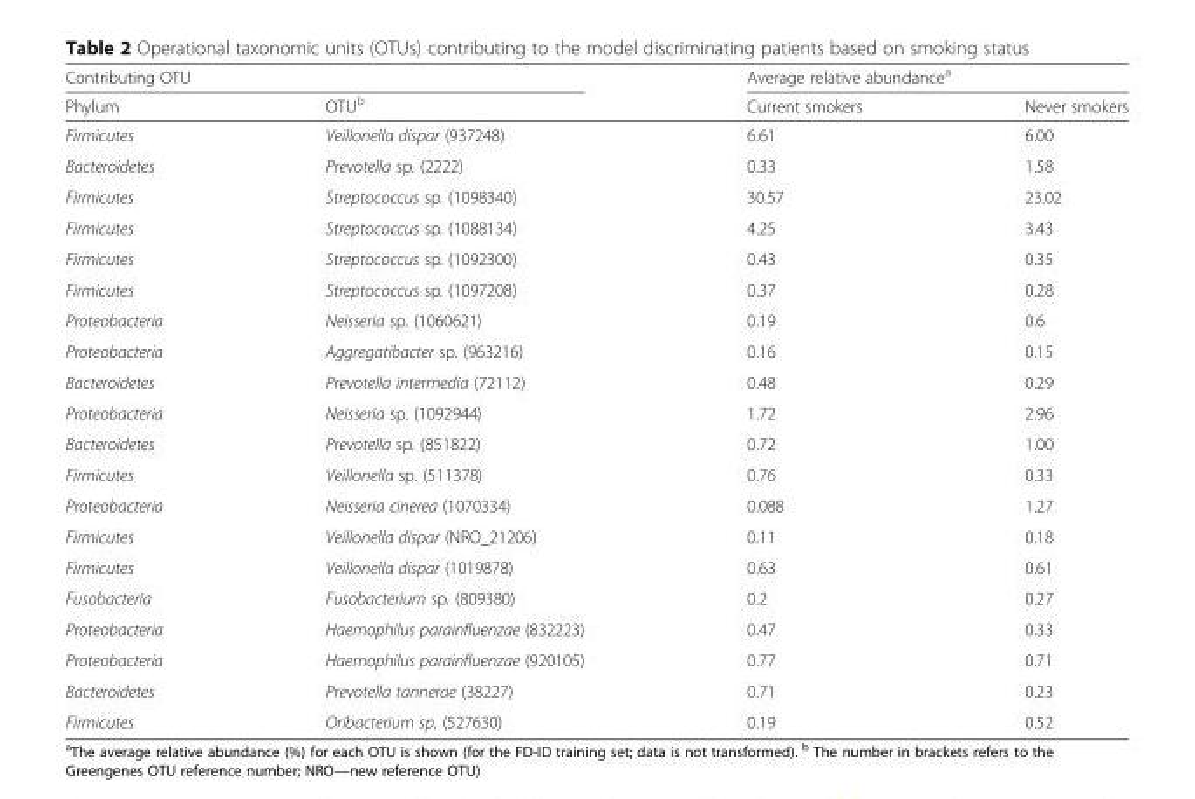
<table><thead><tr><td colspan="2">Contributing OTU</td><td colspan="2">Average relative abundance<sup>a</sup></td></tr><tr><td>Phylum</td><td>OTU<sup>b</sup></td><td>Current smokers</td><td>Never smokers</td></tr></thead><tbody><tr><td>Firmicutes</td><td>Veillonella dispar (937248)</td><td>6.61</td><td>6.00</td></tr><tr><td>Bacteroidetes</td><td>Prevotella sp. (2222)</td><td>0.33</td><td>1.58</td></tr><tr><td>Firmicutes</td><td>Streptococcus sp. (1098340)</td><td>30.57</td><td>23.02</td></tr><tr><td>Firmicutes</td><td>Streptococcus sp. (1088134)</td><td>4.25</td><td>3.43</td></tr><tr><td>Firmicutes</td><td>Streptococcus sp. (1092300)</td><td>0.43</td><td>0.35</td></tr><tr><td>Firmicutes</td><td>Streptococcus sp. (1097208)</td><td>0.37</td><td>0.28</td></tr><tr><td>Proteobacteria</td><td>Neisseria sp. (1060621)</td><td>0.19</td><td>0.6</td></tr><tr><td>Proteobacteria</td><td>Aggregatibacter sp. (963216)</td><td>0.16</td><td>0.15</td></tr><tr><td>Bacteroidetes</td><td>Prevotella intermedia (72112)</td><td>0.48</td><td>0.29</td></tr><tr><td>Proteobacteria</td><td>Neisseria sp. (1092944)</td><td>1.72</td><td>2.96</td></tr><tr><td>Bacteroidetes</td><td>Prevotella sp. (851822)</td><td>0.72</td><td>1.00</td></tr><tr><td>Firmicutes</td><td>Veillonella sp. (511378)</td><td>0.76</td><td>0.33</td></tr><tr><td>Proteobacteria</td><td>Neisseria cinerea (1070334)</td><td>0.088</td><td>1.27</td></tr><tr><td>Firmicutes</td><td>Veillonella dispar (NRO_21206)</td><td>0.11</td><td>0.18</td></tr><tr><td>Firmicutes</td><td>Veillonella dispar (1019878)</td><td>0.63</td><td>0.61</td></tr><tr><td>Fusobacteria</td><td>Fusobacterium sp. (809380)</td><td>0.2</td><td>0.27</td></tr><tr><td>Proteobacteria</td><td>Haemophilus parainfluenzae (832223)</td><td>0.47</td><td>0.33</td></tr><tr><td>Proteobacteria</td><td>Haemophilus parainfluenzae (920105)</td><td>0.77</td><td>0.71</td></tr><tr><td>Bacteroidetes</td><td>Prevotella tannerae (38227)</td><td>0.71</td><td>0.23</td></tr><tr><td>Firmicutes</td><td>Oribacterium sp. (527630)</td><td>0.19</td><td>0.52</td></tr></tbody></table>